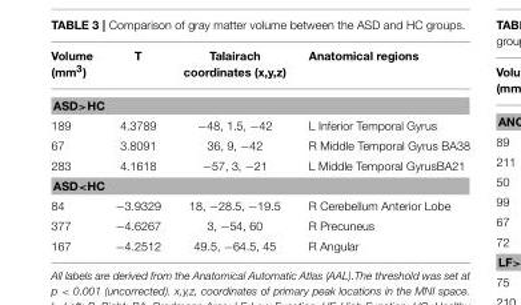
<table><thead><tr><td>Volume (mm<sup>3</sup>)</td><td>T</td><td>Talairach coordinates (x,y,z)</td><td>Anatomical regions</td></tr></thead><tbody><tr><td colspan="4">ASD&gt;HC</td></tr><tr><td>189</td><td>4.3789</td><td>−48, 1.5, −42</td><td>L Inferior Temporal Gyrus</td></tr><tr><td>67</td><td>3.8091</td><td>36, 9, −42</td><td>R Middle Temporal Gyrus BA38</td></tr><tr><td>283</td><td>4.1618</td><td>−57, 3, −21</td><td>L Middle Temporal GyrusBA21</td></tr><tr><td colspan="4">ASD&lt;HC</td></tr><tr><td>84</td><td>−3.9329</td><td>18, −28.5, −19.5</td><td>R Cerebellum Anterior Lobe</td></tr><tr><td>377</td><td>−4.6267</td><td>3, −54, 60</td><td>R Precuneus</td></tr><tr><td>167</td><td>−4.2512</td><td>49.5, −64.5, 45</td><td>R Angular</td></tr></tbody></table>